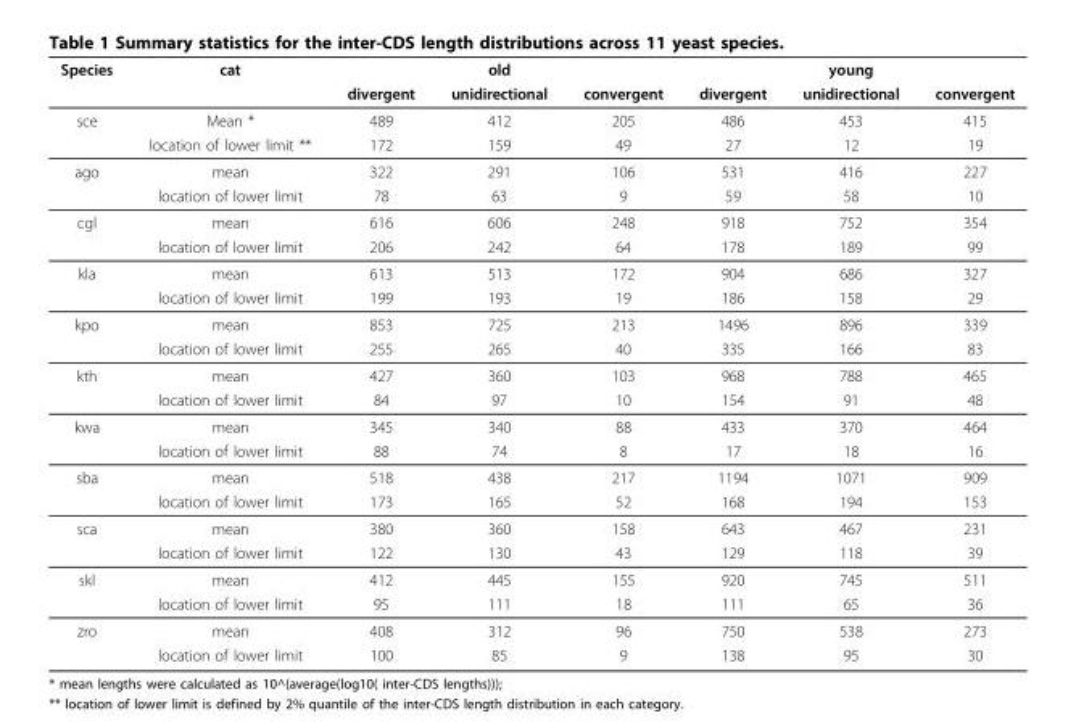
<table><thead><tr><td rowspan="2">Species</td><td rowspan="2">cat</td><td rowspan="2">divergent</td><td rowspan="2">old unidirectional</td><td rowspan="2">convergent</td><td rowspan="2">divergent</td><td rowspan="2">young unidirectional</td><td rowspan="2">convergent</td></tr><tr></tr></thead><tbody><tr><td rowspan="2">sce</td><td>Mean *</td><td>489</td><td>412</td><td>205</td><td>486</td><td>453</td><td>415</td></tr><tr><td>location of lower limit **</td><td>172</td><td>159</td><td>49</td><td>27</td><td>12</td><td>19</td></tr><tr><td rowspan="2">ago</td><td>mean</td><td>322</td><td>291</td><td>106</td><td>531</td><td>416</td><td>227</td></tr><tr><td>location of lower limit</td><td>78</td><td>63</td><td>9</td><td>59</td><td>58</td><td>10</td></tr><tr><td rowspan="2">cgl</td><td>mean</td><td>616</td><td>606</td><td>248</td><td>918</td><td>752</td><td>354</td></tr><tr><td>location of lower limit</td><td>206</td><td>242</td><td>64</td><td>178</td><td>189</td><td>99</td></tr><tr><td rowspan="2">kla</td><td>mean</td><td>613</td><td>513</td><td>172</td><td>904</td><td>686</td><td>327</td></tr><tr><td>location of lower limit</td><td>199</td><td>193</td><td>19</td><td>186</td><td>158</td><td>29</td></tr><tr><td rowspan="2">kpo</td><td>mean</td><td>853</td><td>725</td><td>213</td><td>1496</td><td>896</td><td>339</td></tr><tr><td>location of lower limit</td><td>255</td><td>265</td><td>40</td><td>335</td><td>166</td><td>83</td></tr><tr><td rowspan="2">kth</td><td>mean</td><td>427</td><td>360</td><td>103</td><td>968</td><td>788</td><td>465</td></tr><tr><td>location of lower limit</td><td>84</td><td>97</td><td>10</td><td>154</td><td>91</td><td>48</td></tr><tr><td rowspan="2">kwa</td><td>mean</td><td>345</td><td>340</td><td>88</td><td>433</td><td>370</td><td>464</td></tr><tr><td>location of lower limit</td><td>88</td><td>74</td><td>8</td><td>17</td><td>18</td><td>16</td></tr><tr><td rowspan="2">sba</td><td>mean</td><td>518</td><td>438</td><td>217</td><td>1194</td><td>1071</td><td>909</td></tr><tr><td>location of lower limit</td><td>173</td><td>165</td><td>52</td><td>168</td><td>194</td><td>153</td></tr><tr><td rowspan="2">sca</td><td>mean</td><td>380</td><td>360</td><td>158</td><td>643</td><td>467</td><td>231</td></tr><tr><td>location of lower limit</td><td>122</td><td>130</td><td>43</td><td>129</td><td>118</td><td>39</td></tr><tr><td rowspan="2">skl</td><td>mean</td><td>412</td><td>445</td><td>155</td><td>920</td><td>745</td><td>511</td></tr><tr><td>location of lower limit</td><td>95</td><td>111</td><td>18</td><td>111</td><td>65</td><td>36</td></tr><tr><td rowspan="2">zro</td><td>mean</td><td>408</td><td>312</td><td>96</td><td>750</td><td>538</td><td>273</td></tr><tr><td>location of lower limit</td><td>100</td><td>85</td><td>9</td><td>138</td><td>95</td><td>30</td></tr></tbody></table>